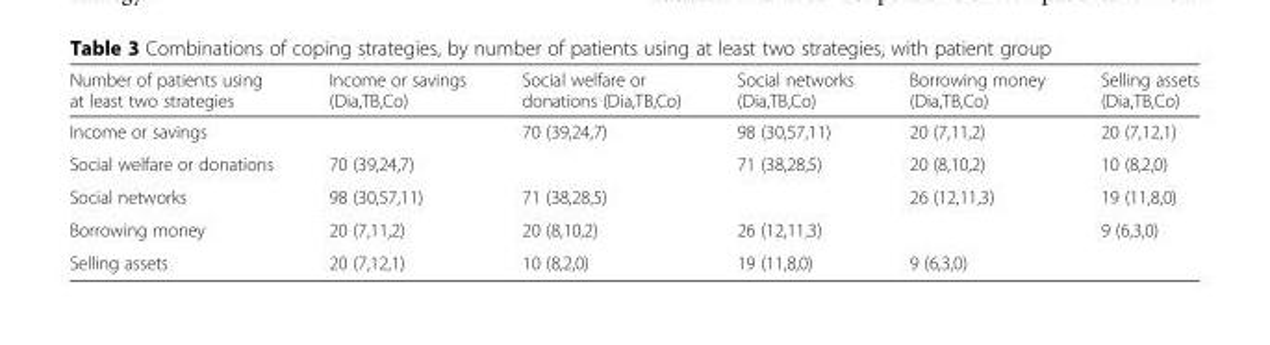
<table><thead><tr><td>Number of patients using at least two strategies</td><td>Income or savings (Dia,TB,Co)</td><td>Social welfare or donations (Dia,TB,Co)</td><td>Social networks (Dia,TB,Co)</td><td>Borrowing money (Dia,TB,Co)</td><td>Selling assets (Dia,TB,Co)</td></tr></thead><tbody><tr><td>Income or savings</td><td></td><td>70 (39,24,7)</td><td>98 (30,57,11)</td><td>20 (7,11,2)</td><td>20 (7,12,1)</td></tr><tr><td>Social welfare or donations</td><td>70 (39,24,7)</td><td></td><td>71 (38,28,5)</td><td>20 (8,10,2)</td><td>10 (8,2,0)</td></tr><tr><td>Social networks</td><td>98 (30,57,11)</td><td>71 (38,28,5)</td><td></td><td>26 (12,11,3)</td><td>19 (11,8,0)</td></tr><tr><td>Borrowing money</td><td>20 (7,11,2)</td><td>20 (8,10,2)</td><td>26 (12,11,3)</td><td></td><td>9 (6,3,0)</td></tr><tr><td>Selling assets</td><td>20 (7,12,1)</td><td>10 (8,2,0)</td><td>19 (11,8,0)</td><td>9 (6,3,0)</td><td></td></tr></tbody></table>